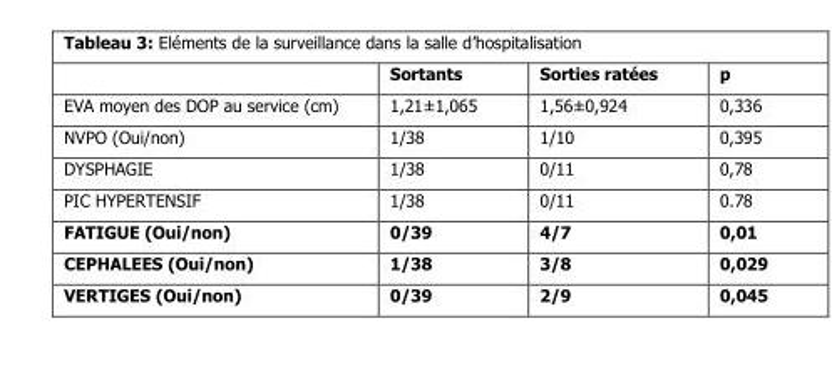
<table><thead><tr><td></td><td>Sortants</td><td>Sorties ratées</td><td>p</td></tr></thead><tbody><tr><td>EVA moyen des DOP au service (cm)</td><td>1,21±1,065</td><td>1,56±0,924</td><td>0,336</td></tr><tr><td>NVPO (Oui/non)</td><td>1/38</td><td>1/10</td><td>0,395</td></tr><tr><td>DYSPHAGIE</td><td>1/38</td><td>0/11</td><td>0,78</td></tr><tr><td>PIC HYPERTENSIF</td><td>1/38</td><td>0/11</td><td>0.78</td></tr><tr><td>FATIGUE (Oui/non)</td><td>0/39</td><td>4/7</td><td>0,01</td></tr><tr><td>CEPHALEES (Oui/non)</td><td>1/38</td><td>3/8</td><td>0,029</td></tr><tr><td>VERTIGES (Oui/non)</td><td>0/39</td><td>2/9</td><td>0,045</td></tr></tbody></table>